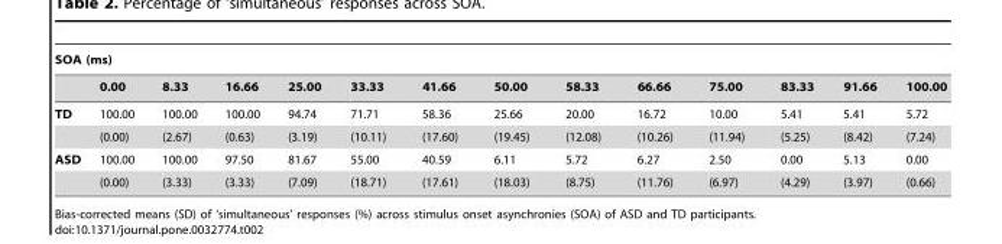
<table><thead><tr><td colspan="14">SOA (ms)</td></tr><tr><td></td><td>0.00</td><td>8.33</td><td>16.66</td><td>25.00</td><td>33.33</td><td>41.66</td><td>50.00</td><td>58.33</td><td>66.66</td><td>75.00</td><td>83.33</td><td>91.66</td><td>100.00</td></tr></thead><tbody><tr><td rowspan="2">TD</td><td>100.00</td><td>100.00</td><td>100.00</td><td>94.74</td><td>71.71</td><td>58.36</td><td>25.66</td><td>20.00</td><td>16.72</td><td>10.00</td><td>5.41</td><td>5.41</td><td>5.72</td></tr><tr><td>(0.00)</td><td>(2.67)</td><td>(0.63)</td><td>(3.19)</td><td>(10.11)</td><td>(17.60)</td><td>(19.45)</td><td>(12.08)</td><td>(10.26)</td><td>(11.94)</td><td>(5.25)</td><td>(8.42)</td><td>(7.24)</td></tr><tr><td rowspan="2">ASD</td><td>100.00</td><td>100.00</td><td>97.50</td><td>81.67</td><td>55.00</td><td>40.59</td><td>6.11</td><td>5.72</td><td>6.27</td><td>2.50</td><td>0.00</td><td>5.13</td><td>0.00</td></tr><tr><td>(0.00)</td><td>(3.33)</td><td>(3.33)</td><td>(7.09)</td><td>(18.71)</td><td>(17.61)</td><td>(18.03)</td><td>(8.75)</td><td>(11.76)</td><td>(6.97)</td><td>(4.29)</td><td>(3.97)</td><td>(0.66)</td></tr></tbody></table>